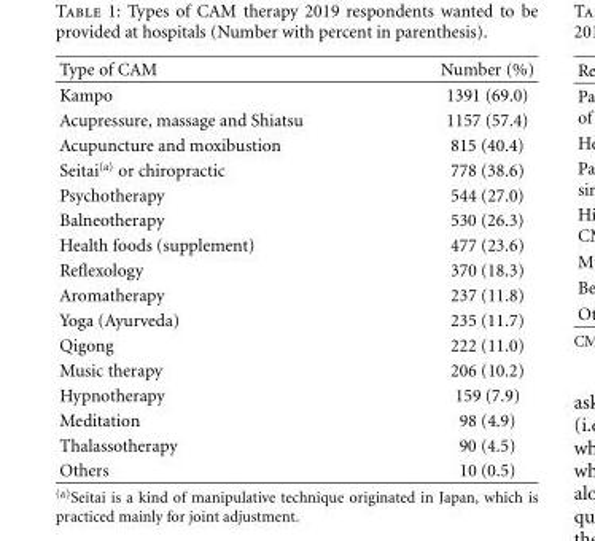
<table><thead><tr><td>Type of CAM</td><td>Number (%)</td></tr></thead><tbody><tr><td>Kampo</td><td>1391 (69.0)</td></tr><tr><td>Acupressure, massage and Shiatsu</td><td>1157 (57.4)</td></tr><tr><td>Acupuncture and moxibustion</td><td>815 (40.4)</td></tr><tr><td>Seitai<sup>(a)</sup> or chiropractic</td><td>778 (38.6)</td></tr><tr><td>Psychotherapy</td><td>544 (27.0)</td></tr><tr><td>Balneotherapy</td><td>530 (26.3)</td></tr><tr><td>Health foods (supplement)</td><td>477 (23.6)</td></tr><tr><td>Reflexology</td><td>370 (18.3)</td></tr><tr><td>Aromatherapy</td><td>237 (11.8)</td></tr><tr><td>Yoga (Ayurveda)</td><td>235 (11.7)</td></tr><tr><td>Qigong</td><td>222 (11.0)</td></tr><tr><td>Music therapy</td><td>206 (10.2)</td></tr><tr><td>Hypnotherapy</td><td>159 (7.9)</td></tr><tr><td>Meditation</td><td>98 (4.9)</td></tr><tr><td>Thalassotherapy</td><td>90 (4.5)</td></tr><tr><td>Others</td><td>10 (0.5)</td></tr></tbody></table>